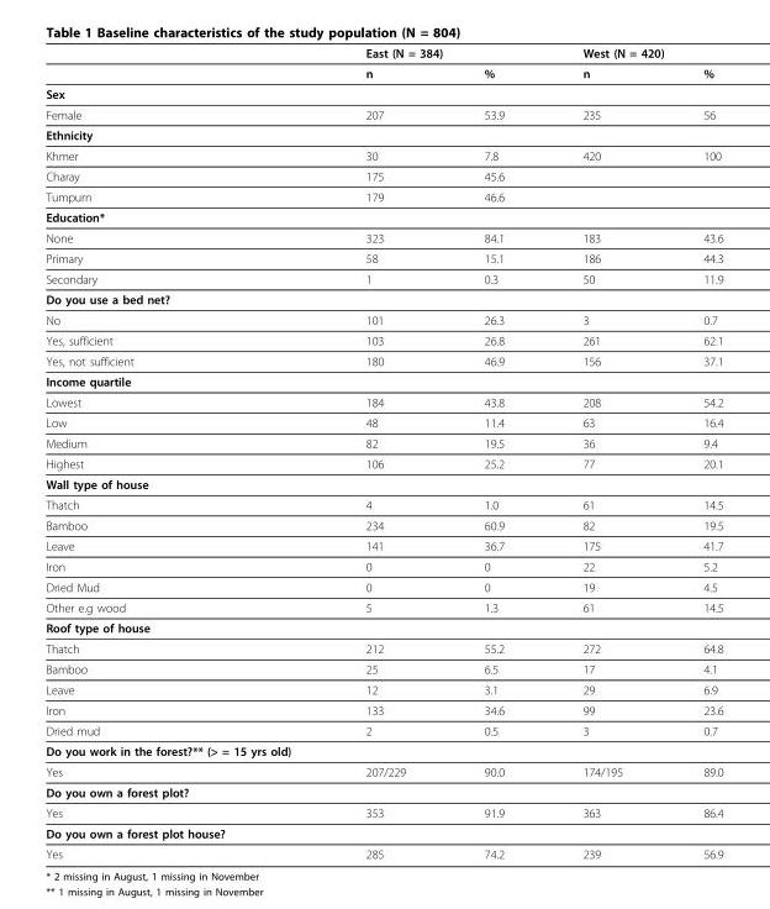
<table><thead><tr><td rowspan="2"></td><td colspan="2">East (N = 384)</td><td colspan="2">West (N = 420)</td></tr><tr><td>n</td><td>%</td><td>n</td><td>%</td></tr></thead><tbody><tr><td colspan="5">Sex</td></tr><tr><td>Female</td><td>207</td><td>53.9</td><td>235</td><td>56</td></tr><tr><td colspan="5">Ethnicity</td></tr><tr><td>Khmer</td><td>30</td><td>7.8</td><td>420</td><td>100</td></tr><tr><td>Charay</td><td>175</td><td>45.6</td><td></td><td></td></tr><tr><td>Tumpurn</td><td>179</td><td>46.6</td><td></td><td></td></tr><tr><td colspan="5">Education*</td></tr><tr><td>None</td><td>323</td><td>84.1</td><td>183</td><td>43.6</td></tr><tr><td>Primary</td><td>58</td><td>15.1</td><td>186</td><td>44.3</td></tr><tr><td>Secondary</td><td>1</td><td>0.3</td><td>50</td><td>11.9</td></tr><tr><td colspan="5">Do you use a bed net?</td></tr><tr><td>No</td><td>101</td><td>26.3</td><td>3</td><td>0.7</td></tr><tr><td>Yes, sufficient</td><td>103</td><td>26.8</td><td>261</td><td>62.1</td></tr><tr><td>Yes, not sufficient</td><td>180</td><td>46.9</td><td>156</td><td>37.1</td></tr><tr><td colspan="5">Income quartile</td></tr><tr><td>Lowest</td><td>184</td><td>43.8</td><td>208</td><td>54.2</td></tr><tr><td>Low</td><td>48</td><td>11.4</td><td>63</td><td>16.4</td></tr><tr><td>Medium</td><td>82</td><td>19.5</td><td>36</td><td>9.4</td></tr><tr><td>Highest</td><td>106</td><td>25.2</td><td>77</td><td>20.1</td></tr><tr><td colspan="5">Wall type of house</td></tr><tr><td>Thatch</td><td>4</td><td>1.0</td><td>61</td><td>14.5</td></tr><tr><td>Bamboo</td><td>234</td><td>60.9</td><td>82</td><td>19.5</td></tr><tr><td>Leave</td><td>141</td><td>36.7</td><td>175</td><td>41.7</td></tr><tr><td>Iron</td><td>0</td><td>0</td><td>22</td><td>5.2</td></tr><tr><td>Dried Mud</td><td>0</td><td>0</td><td>19</td><td>4.5</td></tr><tr><td>Other e.g wood</td><td>5</td><td>1.3</td><td>61</td><td>14.5</td></tr><tr><td colspan="5">Roof type of house</td></tr><tr><td>Thatch</td><td>212</td><td>55.2</td><td>272</td><td>64.8</td></tr><tr><td>Bamboo</td><td>25</td><td>6.5</td><td>17</td><td>4.1</td></tr><tr><td>Leave</td><td>12</td><td>3.1</td><td>29</td><td>6.9</td></tr><tr><td>Iron</td><td>133</td><td>34.6</td><td>99</td><td>23.6</td></tr><tr><td>Dried mud</td><td>2</td><td>0.5</td><td>3</td><td>0.7</td></tr><tr><td colspan="5">Do you work in the forest?** (&gt; = 15 yrs old)</td></tr><tr><td>Yes</td><td>207/229</td><td>90.0</td><td>174/195</td><td>89.0</td></tr><tr><td colspan="5">Do you own a forest plot?</td></tr><tr><td>Yes</td><td>353</td><td>91.9</td><td>363</td><td>86.4</td></tr><tr><td colspan="5">Do you own a forest plot house?</td></tr><tr><td>Yes</td><td>285</td><td>74.2</td><td>239</td><td>56.9</td></tr></tbody></table>